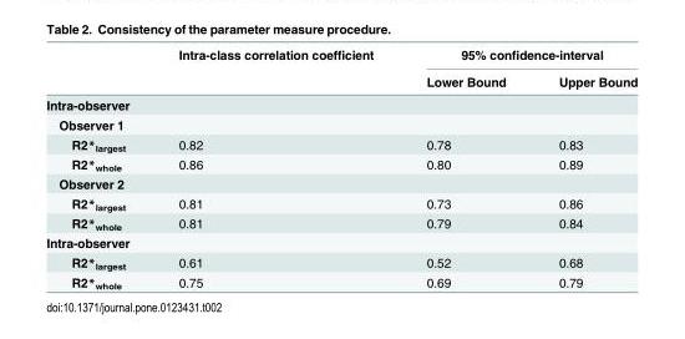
<table><thead><tr><td rowspan="2"></td><td rowspan="2">Intra-class correlation coefficient</td><td colspan="2">95% confidence-interval</td></tr><tr><td>Lower Bound</td><td>Upper Bound</td></tr></thead><tbody><tr><td colspan="4">Intra-observer</td></tr><tr><td colspan="4">Observer 1</td></tr><tr><td>R2*<sub>largest</sub></td><td>0.82</td><td>0.78</td><td>0.83</td></tr><tr><td>R2*<sub>whole</sub></td><td>0.86</td><td>0.80</td><td>0.89</td></tr><tr><td colspan="4">Observer 2</td></tr><tr><td>R2*<sub>largest</sub></td><td>0.81</td><td>0.73</td><td>0.86</td></tr><tr><td>R2*<sub>whole</sub></td><td>0.81</td><td>0.79</td><td>0.84</td></tr><tr><td colspan="4">Intra-observer</td></tr><tr><td>R2*<sub>largest</sub></td><td>0.61</td><td>0.52</td><td>0.68</td></tr><tr><td>R2*<sub>whole</sub></td><td>0.75</td><td>0.69</td><td>0.79</td></tr></tbody></table>